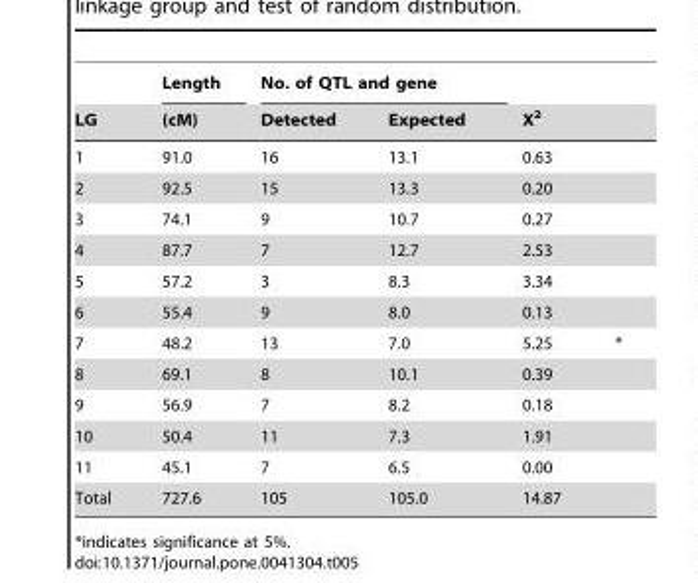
<table><thead><tr><td rowspan="2">LG</td><td rowspan="2">Length (cM)</td><td colspan="2">No. of QTL and gene</td><td rowspan="2">X<sup>2</sup></td><td rowspan="2"></td></tr><tr><td>Detected</td><td>Expected</td></tr></thead><tbody><tr><td>1</td><td>91.0</td><td>16</td><td>13.1</td><td>0.63</td><td></td></tr><tr><td>2</td><td>92.5</td><td>15</td><td>13.3</td><td>0.20</td><td></td></tr><tr><td>3</td><td>74.1</td><td>9</td><td>10.7</td><td>0.27</td><td></td></tr><tr><td>4</td><td>87.7</td><td>7</td><td>12.7</td><td>2.53</td><td></td></tr><tr><td>5</td><td>57.2</td><td>3</td><td>8.3</td><td>3.34</td><td></td></tr><tr><td>6</td><td>55.4</td><td>9</td><td>8.0</td><td>0.13</td><td></td></tr><tr><td>7</td><td>48.2</td><td>13</td><td>7.0</td><td>5.25</td><td>*</td></tr><tr><td>8</td><td>69.1</td><td>8</td><td>10.1</td><td>0.39</td><td></td></tr><tr><td>9</td><td>56.9</td><td>7</td><td>8.2</td><td>0.18</td><td></td></tr><tr><td>10</td><td>50.4</td><td>11</td><td>7.3</td><td>1.91</td><td></td></tr><tr><td>11</td><td>45.1</td><td>7</td><td>6.5</td><td>0.00</td><td></td></tr><tr><td>Total</td><td>727.6</td><td>105</td><td>105.0</td><td>14.87</td><td></td></tr></tbody></table>